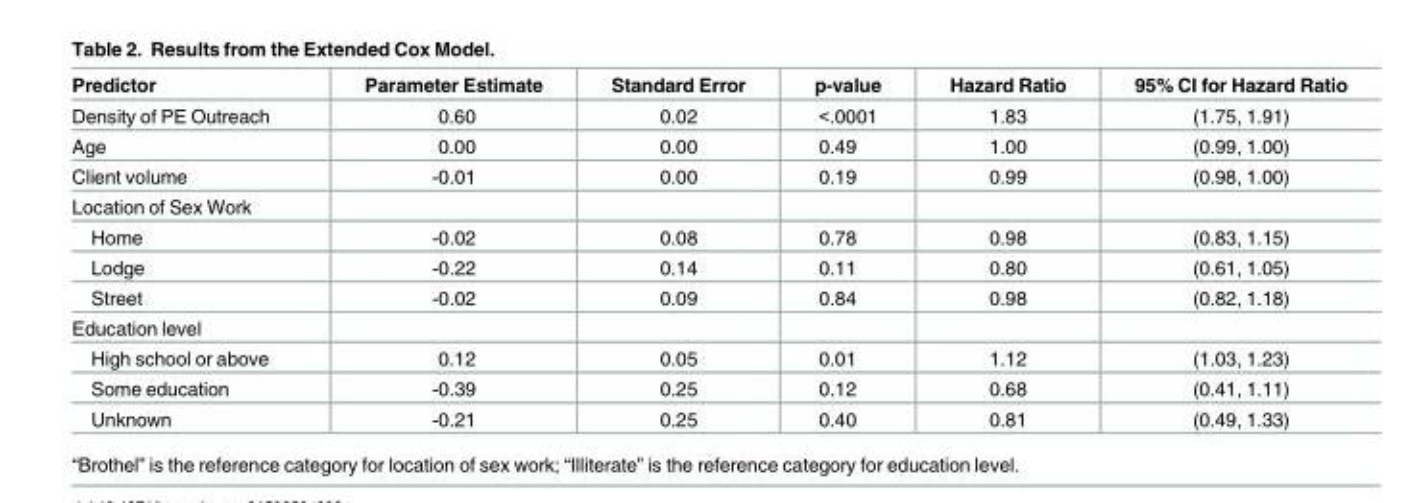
<table><thead><tr><td>Predictor</td><td>Parameter Estimate</td><td>Standard Error</td><td>p-value</td><td>Hazard Ratio</td><td>95% CI for Hazard Ratio</td></tr></thead><tbody><tr><td>Density of PE Outreach</td><td>0.60</td><td>0.02</td><td>&lt;.0001</td><td>1.83</td><td>(1.75, 1.91)</td></tr><tr><td>Age</td><td>0.00</td><td>0.00</td><td>0.49</td><td>1.00</td><td>(0.99, 1.00)</td></tr><tr><td>Client volume</td><td>-0.01</td><td>0.00</td><td>0.19</td><td>0.99</td><td>(0.98, 1.00)</td></tr><tr><td colspan="6">Location of Sex Work</td></tr><tr><td>Home</td><td>-0.02</td><td>0.08</td><td>0.78</td><td>0.98</td><td>(0.83, 1.15)</td></tr><tr><td>Lodge</td><td>-0.22</td><td>0.14</td><td>0.11</td><td>0.80</td><td>(0.61, 1.05)</td></tr><tr><td>Street</td><td>-0.02</td><td>0.09</td><td>0.84</td><td>0.98</td><td>(0.82, 1.18)</td></tr><tr><td colspan="6">Education level</td></tr><tr><td>High school or above</td><td>0.12</td><td>0.05</td><td>0.01</td><td>1.12</td><td>(1.03, 1.23)</td></tr><tr><td>Some education</td><td>-0.39</td><td>0.25</td><td>0.12</td><td>0.68</td><td>(0.41, 1.11)</td></tr><tr><td>Unknown</td><td>-0.21</td><td>0.25</td><td>0.40</td><td>0.81</td><td>(0.49, 1.33)</td></tr></tbody></table>